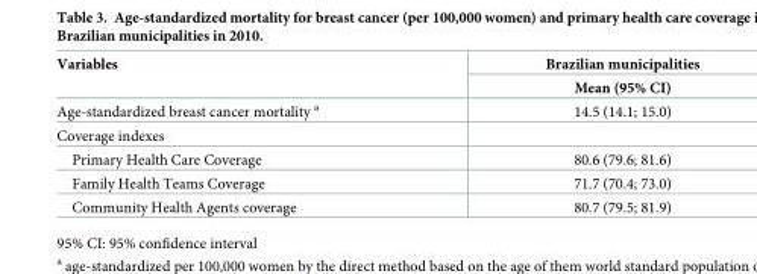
<table><thead><tr><td rowspan="2">Variables</td><td rowspan="2">Brazilian municipalities Mean (95% CI)</td></tr><tr></tr></thead><tbody><tr><td>Age-standardized breast cancer mortality <sup>a</sup></td><td>14.5 (14.1; 15.0)</td></tr><tr><td colspan="2">Coverage indexes</td></tr><tr><td>Primary Health Care Coverage</td><td>80.6 (79.6; 81.6)</td></tr><tr><td>Family Health Teams Coverage</td><td>71.7 (70.4; 73.0)</td></tr><tr><td>Community Health Agents coverage</td><td>80.7 (79.5; 81.9)</td></tr></tbody></table>